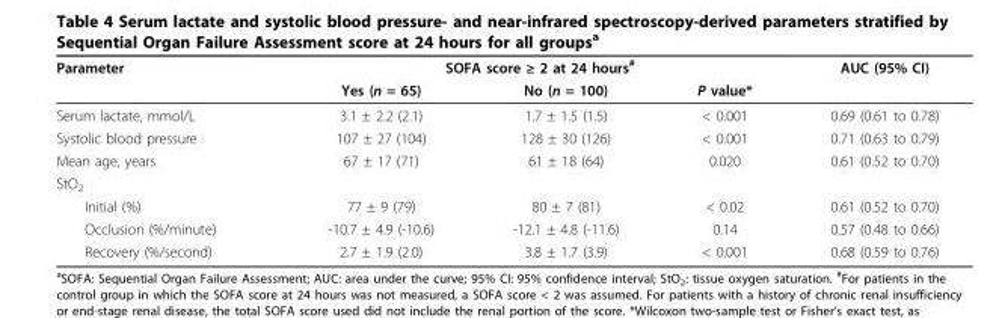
<table><thead><tr><td rowspan="2">Parameter</td><td colspan="3">SOFA score ≥ 2 at 24 hours<sup>#</sup></td><td rowspan="2">AUC (95% CI)</td></tr><tr><td>Yes (n = 65)</td><td>No (n = 100)</td><td>P value*</td></tr></thead><tbody><tr><td>Serum lactate, mmol/L</td><td>3.1 ± 2.2 (2.1)</td><td>1.7 ± 1.5 (1.5)</td><td>&lt; 0.001</td><td>0.69 (0.61 to 0.78)</td></tr><tr><td>Systolic blood pressure</td><td>107 ± 27 (104)</td><td>128 ± 30 (126)</td><td>&lt; 0.001</td><td>0.71 (0.63 to 0.79)</td></tr><tr><td>Mean age, years</td><td>67 ± 17 (71)</td><td>61 ± 18 (64)</td><td>0.020</td><td>0.61 (0.52 to 0.70)</td></tr><tr><td colspan="5">StO<sub>2</sub></td></tr><tr><td>Initial (%)</td><td>77 ± 9 (79)</td><td>80 ± 7 (81)</td><td>&lt; 0.02</td><td>0.61 (0.52 to 0.70)</td></tr><tr><td>Occlusion (%/minute)</td><td>-10.7 ± 4.9 (-10.6)</td><td>-12.1 ± 4.8 (-11.6)</td><td>0.14</td><td>0.57 (0.48 to 0.66)</td></tr><tr><td>Recovery (%/second)</td><td>2.7 ± 1.9 (2.0)</td><td>3.8 ± 1.7 (3.9)</td><td>&lt; 0.001</td><td>0.68 (0.59 to 0.76)</td></tr></tbody></table>